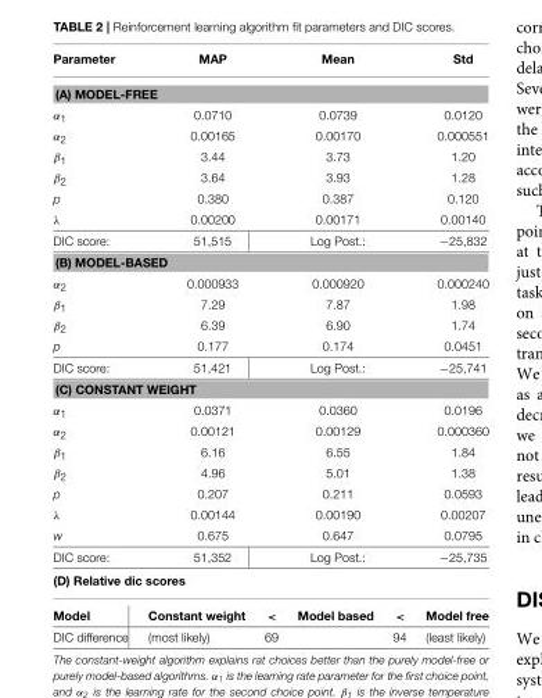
<table><thead><tr><td>Parameter</td><td>MAP</td><td></td><td>Mean</td><td></td><td>Std</td></tr></thead><tbody><tr><td colspan="6">(A) MODEL-FREE</td></tr><tr><td>α<sub>1</sub></td><td>0.0710</td><td></td><td>0.0739</td><td></td><td>0.0120</td></tr><tr><td>α<sub>2</sub></td><td>0.00165</td><td></td><td>0.00170</td><td></td><td>0.000551</td></tr><tr><td>β<sub>1</sub></td><td>3.44</td><td></td><td>3.73</td><td></td><td>1.20</td></tr><tr><td>β<sub>2</sub></td><td>3.64</td><td></td><td>3.93</td><td></td><td>1.28</td></tr><tr><td>p</td><td>0.380</td><td></td><td>0.387</td><td></td><td>0.120</td></tr><tr><td>λ</td><td>0.00200</td><td></td><td>0.00171</td><td></td><td>0.00140</td></tr><tr><td>DIC score:</td><td>51,515</td><td></td><td>Log Post.:</td><td></td><td>−25,832</td></tr><tr><td colspan="6">(B) MODEL-BASED</td></tr><tr><td>α<sub>2</sub></td><td>0.000933</td><td></td><td>0.000920</td><td></td><td>0.000240</td></tr><tr><td>β<sub>1</sub></td><td>7.29</td><td></td><td>7.87</td><td></td><td>1.98</td></tr><tr><td>β<sub>2</sub></td><td>6.39</td><td></td><td>6.90</td><td></td><td>1.74</td></tr><tr><td>p</td><td>0.177</td><td></td><td>0.174</td><td></td><td>0.0451</td></tr><tr><td>DIC score:</td><td>51,421</td><td></td><td>Log Post.:</td><td></td><td>−25,741</td></tr><tr><td colspan="6">(C) CONSTANT WEIGHT</td></tr><tr><td>α<sub>1</sub></td><td>0.0371</td><td></td><td>0.0360</td><td></td><td>0.0196</td></tr><tr><td>α<sub>2</sub></td><td>0.00121</td><td></td><td>0.00129</td><td></td><td>0.000360</td></tr><tr><td>β<sub>1</sub></td><td>6.16</td><td></td><td>6.55</td><td></td><td>1.84</td></tr><tr><td>β<sub>2</sub></td><td>4.96</td><td></td><td>5.01</td><td></td><td>1.38</td></tr><tr><td>p</td><td>0.207</td><td></td><td>0.211</td><td></td><td>0.0593</td></tr><tr><td>λ</td><td>0.00144</td><td></td><td>0.00190</td><td></td><td>0.00207</td></tr><tr><td>w</td><td>0.675</td><td></td><td>0.647</td><td></td><td>0.0795</td></tr><tr><td>DIC score:</td><td>51,352</td><td></td><td>Log Post.:</td><td></td><td>−25,735</td></tr><tr><td colspan="6">(D) Relative dic scores</td></tr><tr><td>Model</td><td>Constant weight</td><td>&lt;</td><td>Model based</td><td>&lt;</td><td>Model free</td></tr><tr><td>DIC difference</td><td>(most likely)</td><td>69</td><td></td><td>94</td><td>(least likely)</td></tr></tbody></table>